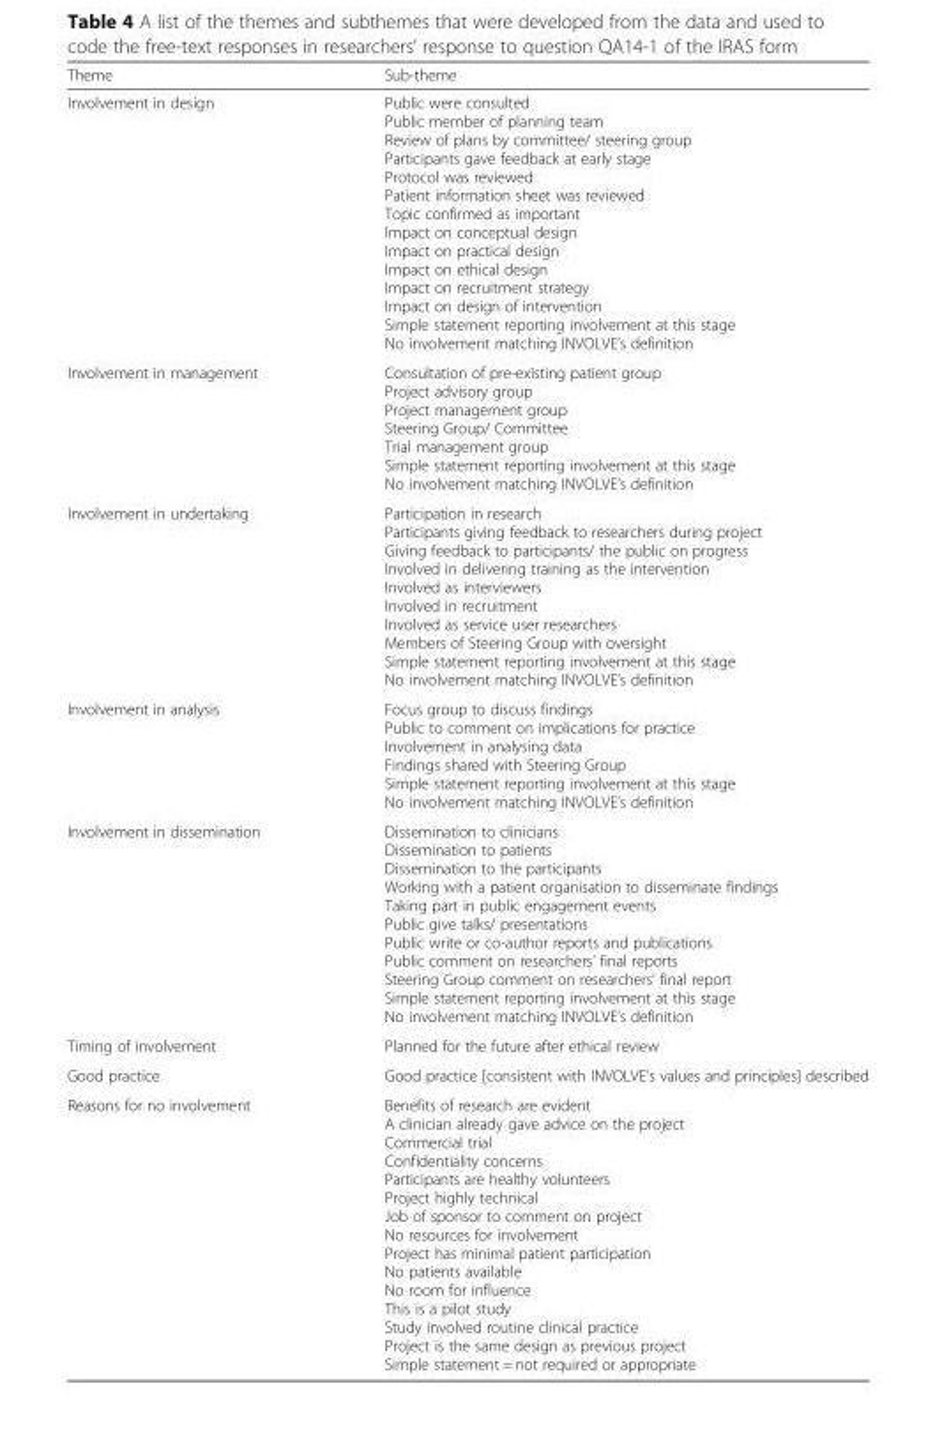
<table><thead><tr><td>Theme</td><td>Sub-theme</td></tr></thead><tbody><tr><td>Involvement in design</td><td>Public were consulted Public member of planning team Review of plans by committee/ steering group Participants gave feedback at early stage Protocol was reviewed Patient information sheet was reviewed Topic confirmed as important Impact on conceptual design Impact on practical design Impact on ethical design Impact on recruitment strategy Impact on design of intervention Simple statement reporting involvement at this stage No involvement matching INVOLVE’s definition</td></tr><tr><td>Involvement in management</td><td>Consultation of pre-existing patient group Project advisory group Project management group Steering Group/ Committee Trial management group Simple statement reporting involvement at this stage No involvement matching INVOLVE’s definition</td></tr><tr><td>Involvement in undertaking</td><td>Participation in research Participants giving feedback to researchers during project Giving feedback to participants/ the public on progress Involved in delivering training as the intervention Involved as interviewers Involved in recruitment Involved as service user researchers Members of Steering Group with oversight Simple statement reporting involvement at this stage No involvement matching INVOLVE’s definition</td></tr><tr><td>Involvement in analysis</td><td>Focus group to discuss findings Public to comment on implications for practice Involvement in analysing data Findings shared with Steering Group Simple statement reporting involvement at this stage No involvement matching INVOLVE’s definition</td></tr><tr><td>Involvement in dissemination</td><td>Dissemination to clinicians Dissemination to patients Dissemination to the participants Working with a patient organisation to disseminate findings Taking part in public engagement events Public give talks/ presentations Public write or co-author reports and publications Public comment on researchers’ final reports Steering Group comment on researchers’ final report Simple statement reporting involvement at this stage No involvement matching INVOLVE’s definition</td></tr><tr><td>Timing of involvement</td><td>Planned for the future after ethical review</td></tr><tr><td>Good practice</td><td>Good practice [consistent with INVOLVE’s values and principles] described</td></tr><tr><td>Reasons for no involvement</td><td>Benefits of research are evident A clinician already gave advice on the project Commercial trial Confidentiality concerns Participants are healthy volunteers Project highly technical Job of sponsor to comment on project No resources for involvement Project has minimal patient participation No patients available No room for influence This is a pilot study Study involved routine clinical practice Project is the same design as previous project Simple statement = not required or appropriate</td></tr></tbody></table>